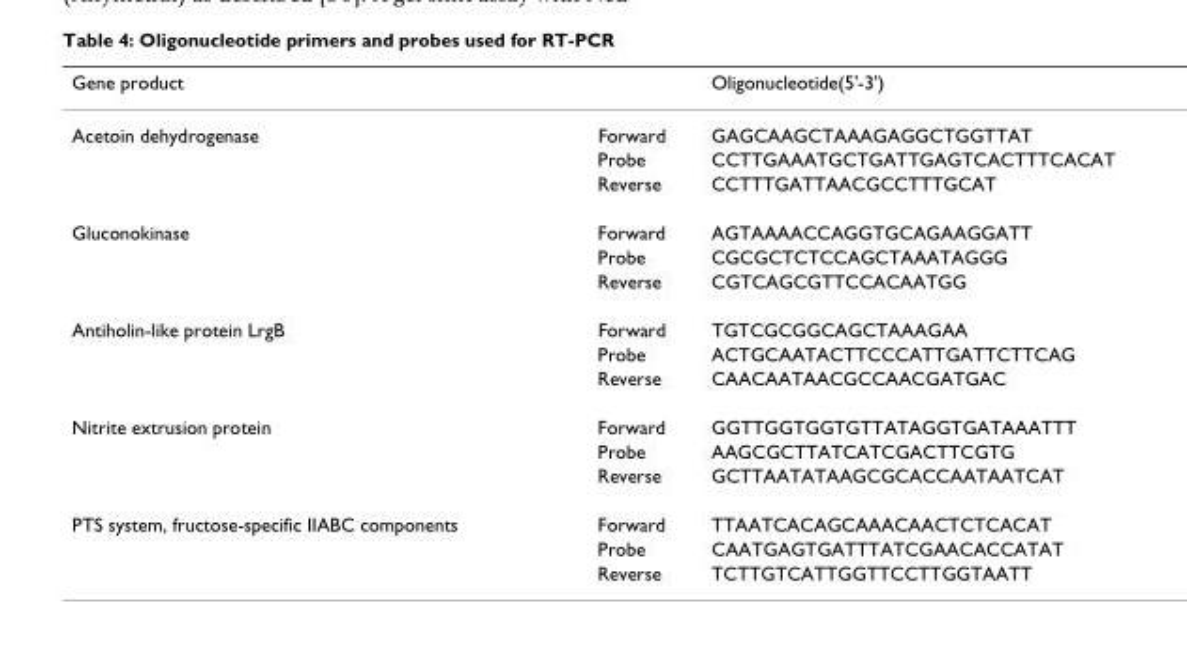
<table><thead><tr><td>Gene product</td><td></td><td>Oligonucleotide(5&#x27;-3&#x27;)</td></tr></thead><tbody><tr><td rowspan="3">Acetoin dehydrogenase</td><td>Forward</td><td>GAGCAAGCTAAAGAGGCTGGTTAT</td></tr><tr><td>Probe</td><td>CCTTGAAATGCTGATTGAGTCACTTTCACAT</td></tr><tr><td>Reverse</td><td>CCTTTGATTAACGCCTTTGCAT</td></tr><tr><td rowspan="3">Gluconokinase</td><td>Forward</td><td>AGTAAAACCAGGTGCAGAAGGATT</td></tr><tr><td>Probe</td><td>CGCGCTCTCCAGCTAAATAGGG</td></tr><tr><td>Reverse</td><td>CGTCAGCGTTCCACAATGG</td></tr><tr><td rowspan="3">Antiholin-like protein LrgB</td><td>Forward</td><td>TGTCGCGGCAGCTAAAGAA</td></tr><tr><td>Probe</td><td>ACTGCAATACTTCCCATTGATTCTTCAG</td></tr><tr><td>Reverse</td><td>CAACAATAACGCCAACGATGAC</td></tr><tr><td rowspan="3">Nitrite extrusion protein</td><td>Forward</td><td>GGTTGGTGGTGTTATAGGTGATAAATTT</td></tr><tr><td>Probe</td><td>AAGCGCTTATCATCGACTTCGTG</td></tr><tr><td>Reverse</td><td>GCTTAATATAAGCGCACCAATAATCAT</td></tr><tr><td rowspan="3">PTS system, fructose-specific IIABC components</td><td>Forward</td><td>TTAATCACAGCAAACAACTCTCACAT</td></tr><tr><td>Probe</td><td>CAATGAGTGATTTATCGAACACCATAT</td></tr><tr><td>Reverse</td><td>TCTTGTCATTGGTTCCTTGGTAATT</td></tr></tbody></table>